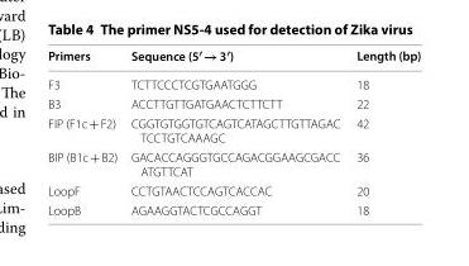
<table><thead><tr><td>Primers</td><td>Sequence (5′ → 3′)</td><td>Length (bp)</td></tr></thead><tbody><tr><td>F3</td><td>TCTTCCCTCGTGAATGGG</td><td>18</td></tr><tr><td>B3</td><td>ACCTTGTTGATGAACTCTTCTT</td><td>22</td></tr><tr><td>FIP (F1c + F2)</td><td>CGGTGTGGTGTCAGTCATAGCTTGTTAGAC TCCTGTCAAAGC</td><td>42</td></tr><tr><td>BIP (B1c + B2)</td><td>GACACCAGGGTGCCAGACGGAAGCGACC ATGTTCAT</td><td>36</td></tr><tr><td>LoopF</td><td>CCTGTAACTCCAGTCACCAC</td><td>20</td></tr><tr><td>LoopB</td><td>AGAAGGTACTCGCCAGGT</td><td>18</td></tr></tbody></table>